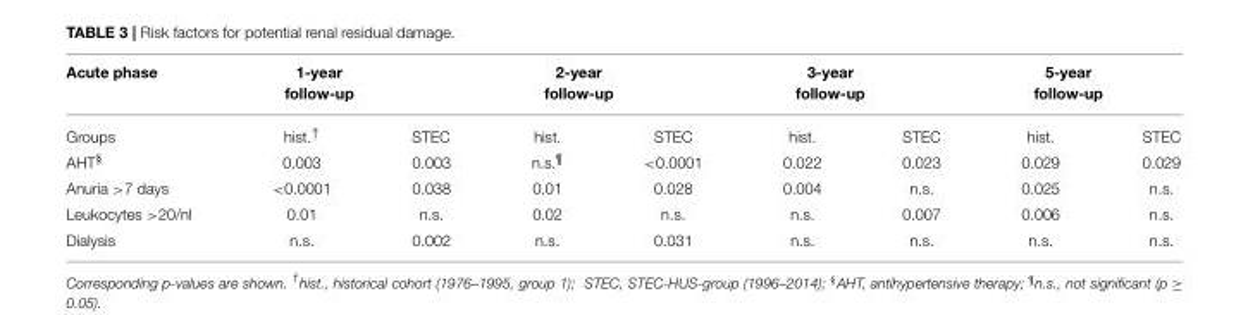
<table><thead><tr><td rowspan="2">Acute phase Groups</td><td colspan="2">1-year follow-up</td><td colspan="2">2-year follow-up</td><td colspan="2">3-year follow-up</td><td colspan="2">5-year follow-up</td></tr><tr><td>hist.<sup>†</sup></td><td>STEC</td><td>hist.</td><td>STEC</td><td>hist.</td><td>STEC</td><td>hist.</td><td>STEC</td></tr></thead><tbody><tr><td>AHT<sup>§</sup></td><td>0.003</td><td>0.003</td><td>n.s.<sup>¶</sup></td><td>&lt;0.0001</td><td>0.022</td><td>0.023</td><td>0.029</td><td>0.029</td></tr><tr><td>Anuria &gt;7 days</td><td>&lt;0.0001</td><td>0.038</td><td>0.01</td><td>0.028</td><td>0.004</td><td>n.s.</td><td>0.025</td><td>n.s.</td></tr><tr><td>Leukocytes &gt;20/nl</td><td>0.01</td><td>n.s.</td><td>0.02</td><td>n.s.</td><td>n.s.</td><td>0.007</td><td>0.006</td><td>n.s.</td></tr><tr><td>Dialysis</td><td>n.s.</td><td>0.002</td><td>n.s.</td><td>0.031</td><td>n.s.</td><td>n.s.</td><td>n.s.</td><td>n.s.</td></tr></tbody></table>